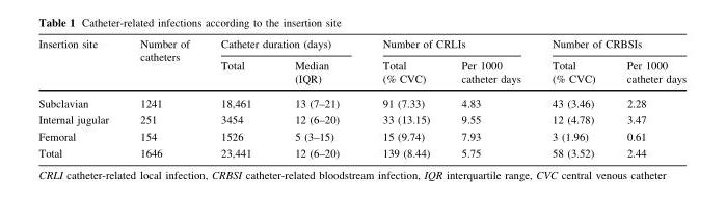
<table><thead><tr><td rowspan="2">Insertion site</td><td rowspan="2">Number of catheters</td><td colspan="2">Catheter duration (days)</td><td colspan="2">Number of CRLIs</td><td colspan="2">Number of CRBSIs</td></tr><tr><td>Total</td><td>Median (IQR)</td><td>Total (% CVC)</td><td>Per 1000 catheter days</td><td>Total (% CVC)</td><td>Per 1000 catheter days</td></tr></thead><tbody><tr><td>Subclavian</td><td>1241</td><td>18,461</td><td>13 (7–21)</td><td>91 (7.33)</td><td>4.83</td><td>43 (3.46)</td><td>2.28</td></tr><tr><td>Internal jugular</td><td>251</td><td>3454</td><td>12 (6–20)</td><td>33 (13.15)</td><td>9.55</td><td>12 (4.78)</td><td>3.47</td></tr><tr><td>Femoral</td><td>154</td><td>1526</td><td>5 (3–15)</td><td>15 (9.74)</td><td>7.93</td><td>3 (1.96)</td><td>0.61</td></tr><tr><td>Total</td><td>1646</td><td>23,441</td><td>12 (6–20)</td><td>139 (8.44)</td><td>5.75</td><td>58 (3.52)</td><td>2.44</td></tr></tbody></table>